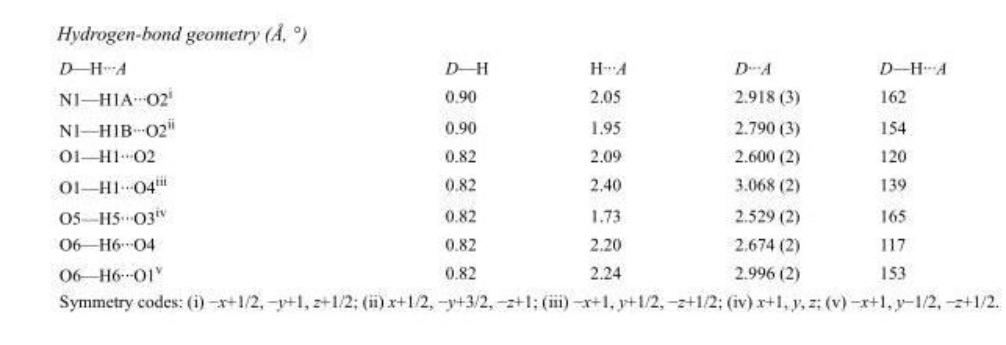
<table><tbody><tr><td>D—H···A</td><td>D—H</td><td>H···A</td><td>D···A</td><td>D—H···A</td></tr><tr><td>N1—H1A···O2<sup>i</sup></td><td>0.90</td><td>2.05</td><td>2.918 (3)</td><td>162</td></tr><tr><td>N1—H1B···O2<sup>ii</sup></td><td>0.90</td><td>1.95</td><td>2.790 (3)</td><td>154</td></tr><tr><td>O1—H1···O2</td><td>0.82</td><td>2.09</td><td>2.600 (2)</td><td>120</td></tr><tr><td>O1—H1···O4<sup>iii</sup></td><td>0.82</td><td>2.40</td><td>3.068 (2)</td><td>139</td></tr><tr><td>O5—H5···O3<sup>iv</sup></td><td>0.82</td><td>1.73</td><td>2.529 (2)</td><td>165</td></tr><tr><td>O6—H6···O4</td><td>0.82</td><td>2.20</td><td>2.674 (2)</td><td>117</td></tr><tr><td>O6—H6···O1<sup>v</sup></td><td>0.82</td><td>2.24</td><td>2.996 (2)</td><td>153</td></tr></tbody></table>